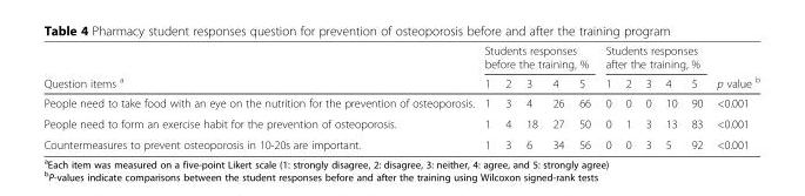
<table><thead><tr><td rowspan="2">Question items <sup>a</sup></td><td colspan="5">Students responses before the training, %</td><td colspan="5">Students responses after the training, %</td><td rowspan="2">p value <sup>b</sup></td></tr><tr><td>1</td><td>2</td><td>3</td><td>4</td><td>5</td><td>1</td><td>2</td><td>3</td><td>4</td><td>5</td></tr></thead><tbody><tr><td>People need to take food with an eye on the nutrition for the prevention of osteoporosis.</td><td>1</td><td>3</td><td>4</td><td>26</td><td>66</td><td>0</td><td>0</td><td>0</td><td>10</td><td>90</td><td>&lt;0.001</td></tr><tr><td>People need to form an exercise habit for the prevention of osteoporosis.</td><td>1</td><td>4</td><td>18</td><td>27</td><td>50</td><td>0</td><td>1</td><td>3</td><td>13</td><td>83</td><td>&lt;0.001</td></tr><tr><td>Countermeasures to prevent osteoporosis in 10-20s are important.</td><td>1</td><td>3</td><td>6</td><td>34</td><td>56</td><td>0</td><td>0</td><td>3</td><td>5</td><td>92</td><td>&lt;0.001</td></tr></tbody></table>